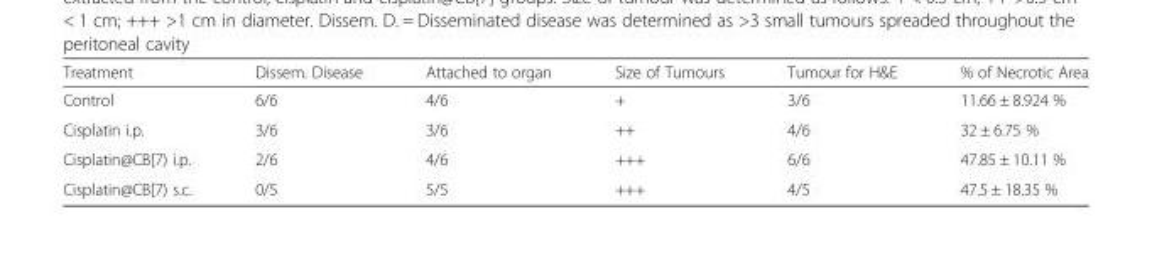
<table><thead><tr><td>Treatment</td><td>Dissem. Disease</td><td>Attached to organ</td><td>Size of Tumours</td><td>Tumour for H&amp;E</td><td>% of Necrotic Area</td></tr></thead><tbody><tr><td>Control</td><td>6/6</td><td>4/6</td><td>+</td><td>3/6</td><td>11.66 ± 8.924 %</td></tr><tr><td>Cisplatin i.p.</td><td>3/6</td><td>3/6</td><td>++</td><td>4/6</td><td>32 ± 6.75 %</td></tr><tr><td>Cisplatin@CB[7) i.p.</td><td>2/6</td><td>4/6</td><td>+++</td><td>6/6</td><td>47.85 ± 10.11 %</td></tr><tr><td>Cisplatin@CB[7) s.c.</td><td>0/5</td><td>5/5</td><td>+++</td><td>4/5</td><td>47.5 ± 18.35 %</td></tr></tbody></table>